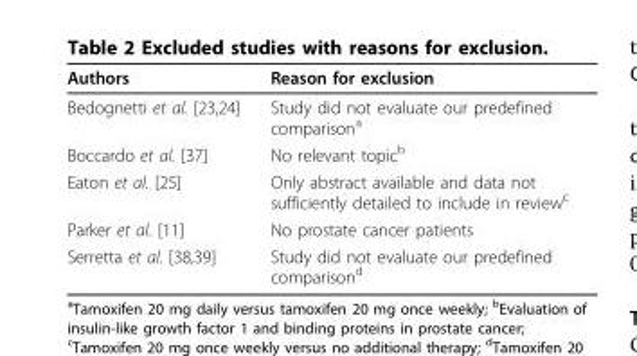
<table><thead><tr><td>Authors</td><td>Reason for exclusion</td></tr></thead><tbody><tr><td>Bedognetti et al. [23,24]</td><td>Study did not evaluate our predefined comparison<sup>a</sup></td></tr><tr><td>Boccardo et al. [37]</td><td>No relevant topic<sup>b</sup></td></tr><tr><td>Eaton et al. [25]</td><td>Only abstract available and data not sufficiently detailed to include in review<sup>c</sup></td></tr><tr><td>Parker et al. [11]</td><td>No prostate cancer patients</td></tr><tr><td>Serretta et al. [38,39]</td><td>Study did not evaluate our predefined comparison<sup>d</sup></td></tr></tbody></table>